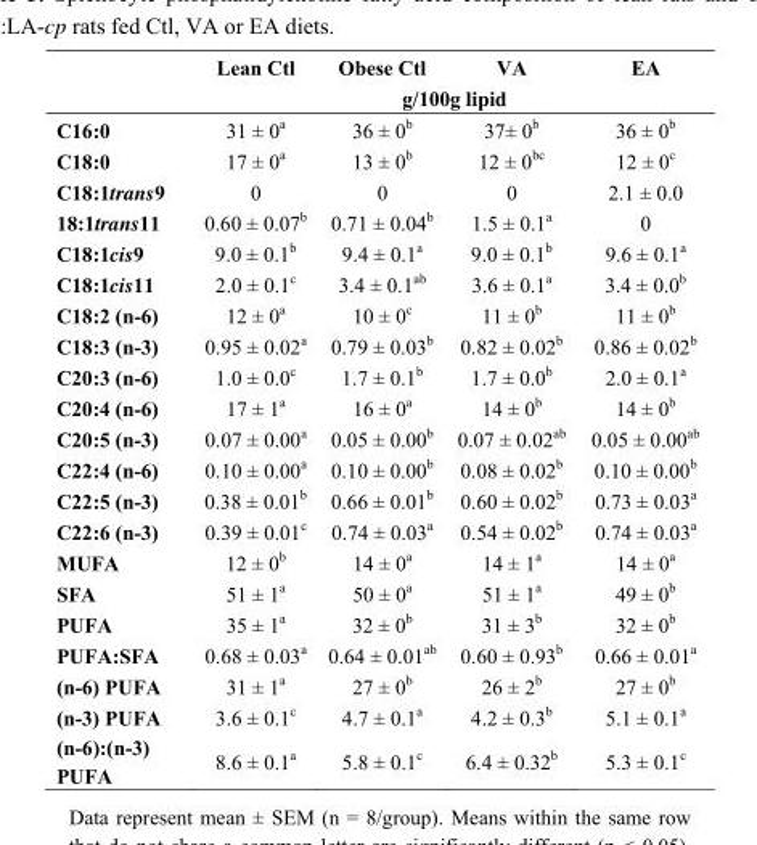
<table><thead><tr><td rowspan="2"></td><td>Lean Ctl</td><td>Obese Ctl</td><td>VA</td><td>EA</td></tr><tr><td colspan="4">g/100g lipid</td></tr></thead><tbody><tr><td>C16:0</td><td>31 ± 0<sup>a</sup></td><td>36 ± 0<sup>b</sup></td><td>37± 0<sup>b</sup></td><td>36 ± 0<sup>b</sup></td></tr><tr><td>C18:0</td><td>17 ± 0<sup>a</sup></td><td>13 ± 0<sup>b</sup></td><td>12 ± 0<sup>bc</sup></td><td>12 ± 0<sup>c</sup></td></tr><tr><td>C18:1trans9</td><td>0</td><td>0</td><td>0</td><td>2.1 ± 0.0</td></tr><tr><td>18:1trans11</td><td>0.60 ± 0.07<sup>b</sup></td><td>0.71 ± 0.04<sup>b</sup></td><td>1.5 ± 0.1<sup>a</sup></td><td>0</td></tr><tr><td>C18:1cis9</td><td>9.0 ± 0.1<sup>b</sup></td><td>9.4 ± 0.1<sup>a</sup></td><td>9.0 ± 0.1<sup>b</sup></td><td>9.6 ± 0.1<sup>a</sup></td></tr><tr><td>C18:1cis11</td><td>2.0 ± 0.1<sup>c</sup></td><td>3.4 ± 0.1<sup>ab</sup></td><td>3.6 ± 0.1<sup>a</sup></td><td>3.4 ± 0.0<sup>b</sup></td></tr><tr><td>C18:2 (n-6)</td><td>12 ± 0<sup>a</sup></td><td>10 ± 0<sup>c</sup></td><td>11 ± 0<sup>b</sup></td><td>11 ± 0<sup>b</sup></td></tr><tr><td>C18:3 (n-3)</td><td>0.95 ± 0.02<sup>a</sup></td><td>0.79 ± 0.03<sup>b</sup></td><td>0.82 ± 0.02<sup>b</sup></td><td>0.86 ± 0.02<sup>b</sup></td></tr><tr><td>C20:3 (n-6)</td><td>1.0 ± 0.0<sup>c</sup></td><td>1.7 ± 0.1<sup>b</sup></td><td>1.7 ± 0.0<sup>b</sup></td><td>2.0 ± 0.1<sup>a</sup></td></tr><tr><td>C20:4 (n-6)</td><td>17 ± 1<sup>a</sup></td><td>16 ± 0<sup>a</sup></td><td>14 ± 0<sup>b</sup></td><td>14 ± 0<sup>b</sup></td></tr><tr><td>C20:5 (n-3)</td><td>0.07 ± 0.00<sup>a</sup></td><td>0.05 ± 0.00<sup>b</sup></td><td>0.07 ± 0.02<sup>ab</sup></td><td>0.05 ± 0.00<sup>ab</sup></td></tr><tr><td>C22:4 (n-6)</td><td>0.10 ± 0.00<sup>a</sup></td><td>0.10 ± 0.00<sup>b</sup></td><td>0.08 ± 0.02<sup>b</sup></td><td>0.10 ± 0.00<sup>b</sup></td></tr><tr><td>C22:5 (n-3)</td><td>0.38 ± 0.01<sup>b</sup></td><td>0.66 ± 0.01<sup>b</sup></td><td>0.60 ± 0.02<sup>b</sup></td><td>0.73 ± 0.03<sup>a</sup></td></tr><tr><td>C22:6 (n-3)</td><td>0.39 ± 0.01<sup>c</sup></td><td>0.74 ± 0.03<sup>a</sup></td><td>0.54 ± 0.02<sup>b</sup></td><td>0.74 ± 0.03<sup>a</sup></td></tr><tr><td>MUFA</td><td>12 ± 0<sup>b</sup></td><td>14 ± 0<sup>a</sup></td><td>14 ± 1<sup>a</sup></td><td>14 ± 0<sup>a</sup></td></tr><tr><td>SFA</td><td>51 ± 1<sup>a</sup></td><td>50 ± 0<sup>a</sup></td><td>51 ± 1<sup>a</sup></td><td>49 ± 0<sup>b</sup></td></tr><tr><td>PUFA</td><td>35 ± 1<sup>a</sup></td><td>32 ± 0<sup>b</sup></td><td>31 ± 3<sup>b</sup></td><td>32 ± 0<sup>b</sup></td></tr><tr><td>PUFA:SFA</td><td>0.68 ± 0.03<sup>a</sup></td><td>0.64 ± 0.01<sup>ab</sup></td><td>0.60 ± 0.93<sup>b</sup></td><td>0.66 ± 0.01<sup>a</sup></td></tr><tr><td>(n-6) PUFA</td><td>31 ± 1<sup>a</sup></td><td>27 ± 0<sup>b</sup></td><td>26 ± 2<sup>b</sup></td><td>27 ± 0<sup>b</sup></td></tr><tr><td>(n-3) PUFA</td><td>3.6 ± 0.1<sup>c</sup></td><td>4.7 ± 0.1<sup>a</sup></td><td>4.2 ± 0.3<sup>b</sup></td><td>5.1 ± 0.1<sup>a</sup></td></tr><tr><td>(n-6):(n-3) PUFA</td><td>8.6 ± 0.1<sup>a</sup></td><td>5.8 ± 0.1<sup>c</sup></td><td>6.4 ± 0.32<sup>b</sup></td><td>5.3 ± 0.1<sup>c</sup></td></tr></tbody></table>